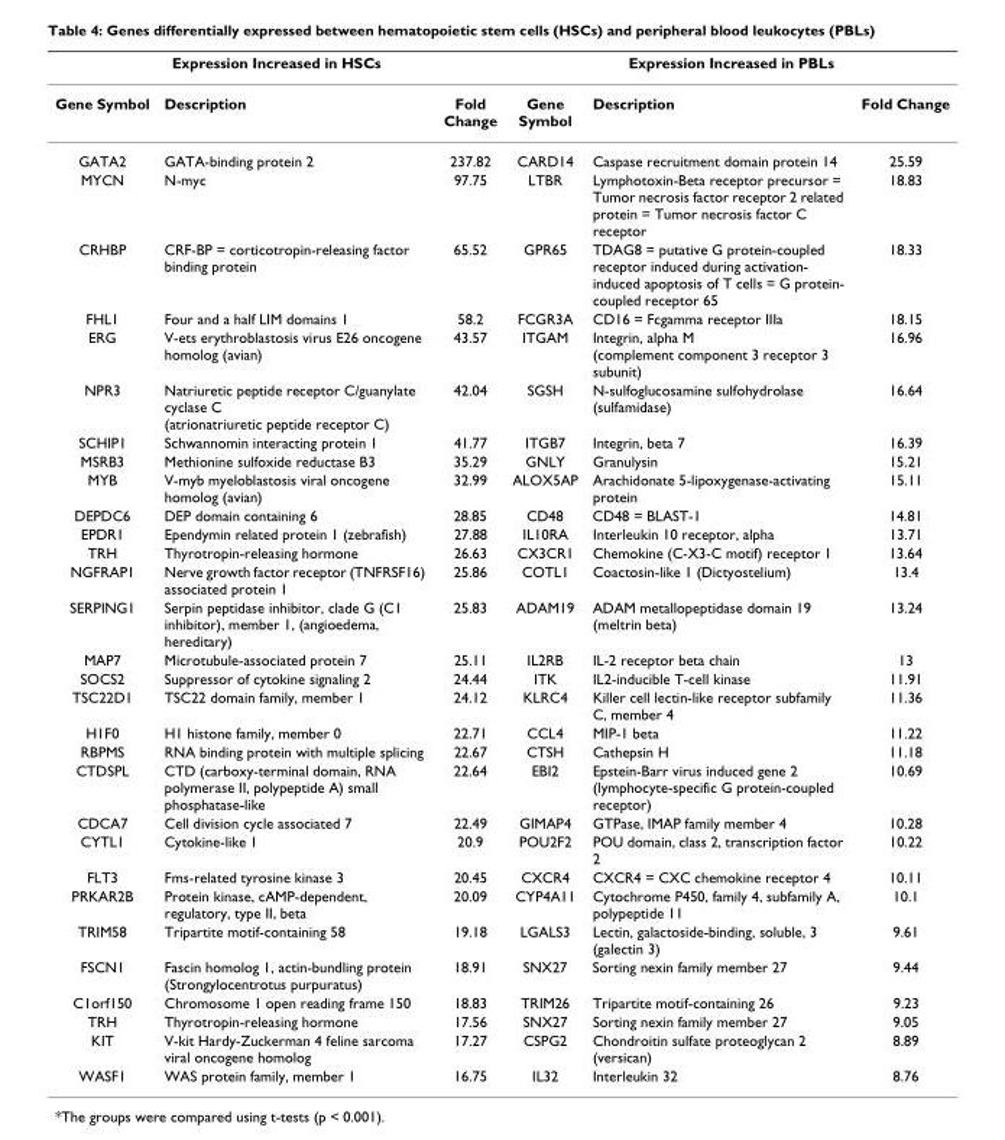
<table><thead><tr><td colspan="3">Expression Increased in HSCs</td><td colspan="3">Expression Increased in PBLs</td></tr><tr><td>Gene Symbol</td><td>Description</td><td>Fold Change</td><td>Gene Symbol</td><td>Description</td><td>Fold Change</td></tr></thead><tbody><tr><td>GATA2</td><td>GATA-binding protein 2</td><td>237.82</td><td>CARD14</td><td>Caspase recruitment domain protein 14</td><td>25.59</td></tr><tr><td>MYCN</td><td>N-myc</td><td>97.75</td><td>LTBR</td><td>Lymphotoxin-Beta receptor precursor = Tumor necrosis factor receptor 2 related protein = Tumor necrosis factor C receptor</td><td>18.83</td></tr><tr><td>CRHBP</td><td>CRF-BP = corticotropin-releasing factor binding protein</td><td>65.52</td><td>GPR65</td><td>TDAG8 = putative G protein-coupled receptor induced during activation- induced apoptosis of T cells = G protein- coupled receptor 65</td><td>18.33</td></tr><tr><td>FHL1</td><td>Four and a half LIM domains 1</td><td>58.2</td><td>FCGR3A</td><td>CD16 = Fcgamma receptor IIIa</td><td>18.15</td></tr><tr><td>ERG</td><td>V-ets erythroblastosis virus E26 oncogene homolog (avian)</td><td>43.57</td><td>ITGAM</td><td>Integrin, alpha M (complement component 3 receptor 3 subunit)</td><td>16.96</td></tr><tr><td>NPR3</td><td>Natriuretic peptide receptor C/guanylate cyclase C (atrionatriuretic peptide receptor C)</td><td>42.04</td><td>SGSH</td><td>N-sulfoglucosamine sulfohydrolase (sulfamidase)</td><td>16.64</td></tr><tr><td>SCHIP1</td><td>Schwannomin interacting protein 1</td><td>41.77</td><td>ITGB7</td><td>Integrin, beta 7</td><td>16.39</td></tr><tr><td>MSRB3</td><td>Methionine sulfoxide reductase B3</td><td>35.29</td><td>GNLY</td><td>Granulysin</td><td>15.21</td></tr><tr><td>MYB</td><td>V-myb myeloblastosis viral oncogene homolog (avian)</td><td>32.99</td><td>ALOX5AP</td><td>Arachidonate 5-lipoxygenase-activating protein</td><td>15.11</td></tr><tr><td>DEPDC6</td><td>DEP domain containing 6</td><td>28.85</td><td>CD48</td><td>CD48 = BLAST-1</td><td>14.81</td></tr><tr><td>EPDR1</td><td>Ependymin related protein 1 (zebrafish)</td><td>27.88</td><td>IL10RA</td><td>Interleukin 10 receptor, alpha</td><td>13.71</td></tr><tr><td>TRH</td><td>Thyrotropin-releasing hormone</td><td>26.63</td><td>CX3CR1</td><td>Chemokine (C-X3-C motif) receptor 1</td><td>13.64</td></tr><tr><td>NGFRAP1</td><td>Nerve growth factor receptor (TNFRSF16) associated protein 1</td><td>25.86</td><td>COTL1</td><td>Coactosin-like 1 (Dictyostelium)</td><td>13.4</td></tr><tr><td>SERPING1</td><td>Serpin peptidase inhibitor, clade G (C1 inhibitor), member 1, (angioedema, hereditary)</td><td>25.83</td><td>ADAM19</td><td>ADAM metallopeptidase domain 19 (meltrin beta)</td><td>13.24</td></tr><tr><td>MAP7</td><td>Microtubule-associated protein 7</td><td>25.11</td><td>IL2RB</td><td>IL-2 receptor beta chain</td><td>13</td></tr><tr><td>SOCS2</td><td>Suppressor of cytokine signaling 2</td><td>24.44</td><td>ITK</td><td>IL2-inducible T-cell kinase</td><td>11.91</td></tr><tr><td>TSC22D1</td><td>TSC22 domain family, member 1</td><td>24.12</td><td>KLRC4</td><td>Killer cell lectin-like receptor subfamily C, member 4</td><td>11.36</td></tr><tr><td>H1F0</td><td>H1 histone family, member 0</td><td>22.71</td><td>CCL4</td><td>MIP-1 beta</td><td>11.22</td></tr><tr><td>RBPMS</td><td>RNA binding protein with multiple splicing</td><td>22.67</td><td>CTSH</td><td>Cathepsin H</td><td>11.18</td></tr><tr><td>CTDSPL</td><td>CTD (carboxy-terminal domain, RNA polymerase II, polypeptide A) small phosphatase-like</td><td>22.64</td><td>EBI2</td><td>Epstein-Barr virus induced gene 2 (lymphocyte-specific G protein-coupled receptor)</td><td>10.69</td></tr><tr><td>CDCA7</td><td>Cell division cycle associated 7</td><td>22.49</td><td>GIMAP4</td><td>GTPase, IMAP family member 4</td><td>10.28</td></tr><tr><td>CYTL1</td><td>Cytokine-like 1</td><td>20.9</td><td>POU2F2</td><td>POU domain, class 2, transcription factor 2</td><td>10.22</td></tr><tr><td>FLT3</td><td>Fms-related tyrosine kinase 3</td><td>20.45</td><td>CXCR4</td><td>CXCR4 = CXC chemokine receptor 4</td><td>10.11</td></tr><tr><td>PRKAR2B</td><td>Protein kinase, cAMP-dependent, regulatory, type II, beta</td><td>20.09</td><td>CYP4A11</td><td>Cytochrome P450, family 4, subfamily A, polypeptide 11</td><td>10.1</td></tr><tr><td>TRIM58</td><td>Tripartite motif-containing 58</td><td>19.18</td><td>LGALS3</td><td>Lectin, galactoside-binding, soluble, 3 (galectin 3)</td><td>9.61</td></tr><tr><td>FSCN1</td><td>Fascin homolog 1, actin-bundling protein (Strongylocentrotus purpuratus)</td><td>18.91</td><td>SNX27</td><td>Sorting nexin family member 27</td><td>9.44</td></tr><tr><td>C1orf150</td><td>Chromosome 1 open reading frame 150</td><td>18.83</td><td>TRIM26</td><td>Tripartite motif-containing 26</td><td>9.23</td></tr><tr><td>TRH</td><td>Thyrotropin-releasing hormone</td><td>17.56</td><td>SNX27</td><td>Sorting nexin family member 27</td><td>9.05</td></tr><tr><td>KIT</td><td>V-kit Hardy-Zuckerman 4 feline sarcoma viral oncogene homolog</td><td>17.27</td><td>CSPG2</td><td>Chondroitin sulfate proteoglycan 2 (versican)</td><td>8.89</td></tr><tr><td>WASF1</td><td>WAS protein family, member 1</td><td>16.75</td><td>IL32</td><td>Interleukin 32</td><td>8.76</td></tr></tbody></table>